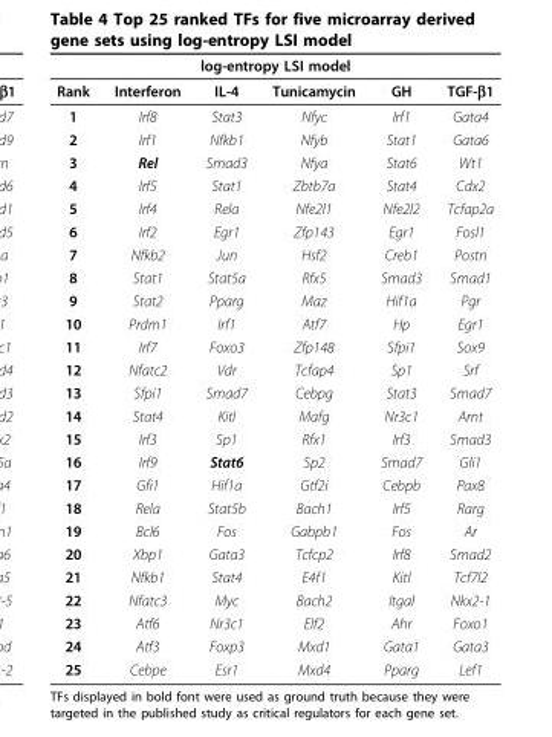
<table><thead><tr><td colspan="6">log-entropy LSI model</td></tr><tr><td>Rank</td><td>Interferon</td><td>IL-4</td><td>Tunicamycin</td><td>GH</td><td>TGF-β1</td></tr></thead><tbody><tr><td>1</td><td>Irf8</td><td>Stat3</td><td>Nfyc</td><td>Irf1</td><td>Gata4</td></tr><tr><td>2</td><td>Irf1</td><td>Nfkb1</td><td>Nfyb</td><td>Stat1</td><td>Gata6</td></tr><tr><td>3</td><td>Rel</td><td>Smad3</td><td>Nfya</td><td>Stat6</td><td>Wt1</td></tr><tr><td>4</td><td>Irf5</td><td>Stat1</td><td>Zbtb7a</td><td>Stat4</td><td>Cdx2</td></tr><tr><td>5</td><td>Irf4</td><td>Rela</td><td>Nfe2l1</td><td>Nfe2l2</td><td>Tcfap2a</td></tr><tr><td>6</td><td>Irf2</td><td>Egr1</td><td>Zfp143</td><td>Egr1</td><td>Fosl1</td></tr><tr><td>7</td><td>Nfkb2</td><td>Jun</td><td>Hsf2</td><td>Creb1</td><td>Postn</td></tr><tr><td>8</td><td>Stat1</td><td>Stat5a</td><td>Rfx5</td><td>Smad3</td><td>Smad1</td></tr><tr><td>9</td><td>Stat2</td><td>Pparg</td><td>Maz</td><td>Hif1a</td><td>Pgr</td></tr><tr><td>10</td><td>Prdm1</td><td>Irf1</td><td>Atf7</td><td>Hp</td><td>Egr1</td></tr><tr><td>11</td><td>Irf7</td><td>Foxo3</td><td>Zfp148</td><td>Sfpi1</td><td>Sox9</td></tr><tr><td>12</td><td>Nfatc2</td><td>Vdr</td><td>Tcfap4</td><td>Sp1</td><td>Srf</td></tr><tr><td>13</td><td>Sfpi1</td><td>Smad7</td><td>Cebpg</td><td>Stat3</td><td>Smad7</td></tr><tr><td>14</td><td>Stat4</td><td>Kitl</td><td>Mafg</td><td>Nr3c1</td><td>Arnt</td></tr><tr><td>15</td><td>Irf3</td><td>Sp1</td><td>Rfx1</td><td>Irf3</td><td>Smad3</td></tr><tr><td>16</td><td>Irf9</td><td>Stat6</td><td>Sp2</td><td>Smad7</td><td>Gli1</td></tr><tr><td>17</td><td>Gfi1</td><td>Hif1a</td><td>Gtf2i</td><td>Cebpb</td><td>Pax8</td></tr><tr><td>18</td><td>Rela</td><td>Stat5b</td><td>Bach1</td><td>Irf5</td><td>Rarg</td></tr><tr><td>19</td><td>Bcl6</td><td>Fos</td><td>Gabpb1</td><td>Fos</td><td>Ar</td></tr><tr><td>20</td><td>Xbp1</td><td>Gata3</td><td>Tcfcp2</td><td>Irf8</td><td>Smad2</td></tr><tr><td>21</td><td>Nfkb1</td><td>Stat4</td><td>E4f1</td><td>Kitl</td><td>Tcf7l2</td></tr><tr><td>22</td><td>Nfatc3</td><td>Myc</td><td>Bach2</td><td>Itgal</td><td>Nkx2-1</td></tr><tr><td>23</td><td>Atf6</td><td>Nr3c1</td><td>Elf2</td><td>Ahr</td><td>Foxo1</td></tr><tr><td>24</td><td>Atf3</td><td>Foxp3</td><td>Mxd1</td><td>Gata1</td><td>Gata3</td></tr><tr><td>25</td><td>Cebpe</td><td>Esr1</td><td>Mxd4</td><td>Pparg</td><td>Lef1</td></tr></tbody></table>